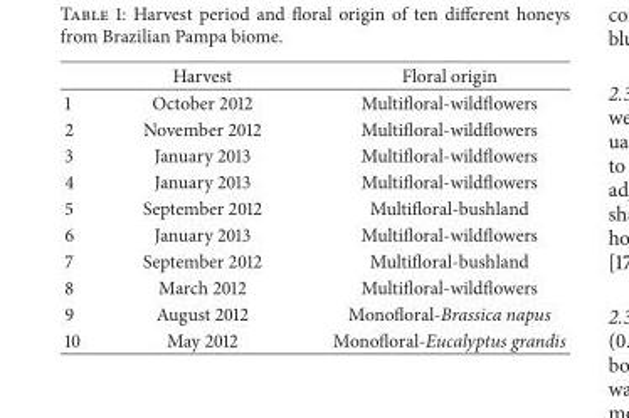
<table><thead><tr><td></td><td>Harvest</td><td>Floral origin</td></tr></thead><tbody><tr><td>1</td><td>October 2012</td><td>Multifloral-wildflowers</td></tr><tr><td>2</td><td>November 2012</td><td>Multifloral-wildflowers</td></tr><tr><td>3</td><td>January 2013</td><td>Multifloral-wildflowers</td></tr><tr><td>4</td><td>January 2013</td><td>Multifloral-wildflowers</td></tr><tr><td>5</td><td>September 2012</td><td>Multifloral-bushland</td></tr><tr><td>6</td><td>January 2013</td><td>Multifloral-wildflowers</td></tr><tr><td>7</td><td>September 2012</td><td>Multifloral-bushland</td></tr><tr><td>8</td><td>March 2012</td><td>Multifloral-wildflowers</td></tr><tr><td>9</td><td>August 2012</td><td>Monofloral-Brassica napus</td></tr><tr><td>10</td><td>May 2012</td><td>Monofloral-Eucalyptus grandis</td></tr></tbody></table>